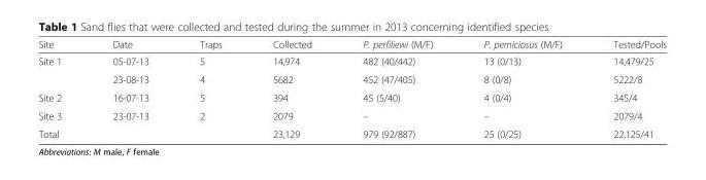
<table><thead><tr><td>Site</td><td>Date</td><td>Traps</td><td>Collected</td><td>P. perfiliewi (M/F)</td><td>P. perniciosus (M/F)</td><td>Tested/Pools</td></tr></thead><tbody><tr><td rowspan="2">Site 1</td><td>05-07-13</td><td>5</td><td>14,974</td><td>482 (40/442)</td><td>13 (0/13)</td><td>14,479/25</td></tr><tr><td>23-08-13</td><td>4</td><td>5682</td><td>452 (47/405)</td><td>8 (0/8)</td><td>5222/8</td></tr><tr><td>Site 2</td><td>16-07-13</td><td>5</td><td>394</td><td>45 (5/40)</td><td>4 (0/4)</td><td>345/4</td></tr><tr><td>Site 3</td><td>23-07-13</td><td>2</td><td>2079</td><td>–</td><td>–</td><td>2079/4</td></tr><tr><td>Total</td><td></td><td></td><td>23,129</td><td>979 (92/887)</td><td>25 (0/25)</td><td>22,125/41</td></tr></tbody></table>